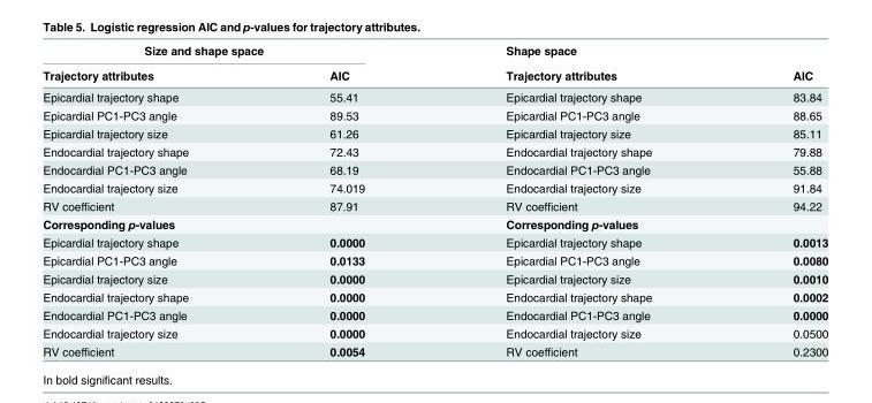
<table><thead><tr><td colspan="2">Size and shape space</td><td rowspan="2">Shape space Trajectory attributes</td><td rowspan="2">AIC</td></tr><tr><td>Trajectory attributes</td><td>AIC</td></tr></thead><tbody><tr><td>Epicardial trajectory shape</td><td>55.41</td><td>Epicardial trajectory shape</td><td>83.84</td></tr><tr><td>Epicardial PC1-PC3 angle</td><td>89.53</td><td>Epicardial PC1-PC3 angle</td><td>88.65</td></tr><tr><td>Epicardial trajectory size</td><td>61.26</td><td>Epicardial trajectory size</td><td>85.11</td></tr><tr><td>Endocardial trajectory shape</td><td>72.43</td><td>Endocardial trajectory shape</td><td>79.88</td></tr><tr><td>Endocardial PC1-PC3 angle</td><td>68.19</td><td>Endocardial PC1-PC3 angle</td><td>55.88</td></tr><tr><td>Endocardial trajectory size</td><td>74.019</td><td>Endocardial trajectory size</td><td>91.84</td></tr><tr><td>RV coefficient</td><td>87.91</td><td>RV coefficient</td><td>94.22</td></tr><tr><td colspan="2">Corresponding p-values</td><td>Corresponding p-values</td><td></td></tr><tr><td>Epicardial trajectory shape</td><td>0.0000</td><td>Epicardial trajectory shape</td><td>0.0013</td></tr><tr><td>Epicardial PC1-PC3 angle</td><td>0.0133</td><td>Epicardial PC1-PC3 angle</td><td>0.0080</td></tr><tr><td>Epicardial trajectory size</td><td>0.0000</td><td>Epicardial trajectory size</td><td>0.0010</td></tr><tr><td>Endocardial trajectory shape</td><td>0.0000</td><td>Endocardial trajectory shape</td><td>0.0002</td></tr><tr><td>Endocardial PC1-PC3 angle</td><td>0.0000</td><td>Endocardial PC1-PC3 angle</td><td>0.0000</td></tr><tr><td>Endocardial trajectory size</td><td>0.0000</td><td>Endocardial trajectory size</td><td>0.0500</td></tr><tr><td>RV coefficient</td><td>0.0054</td><td>RV coefficient</td><td>0.2300</td></tr></tbody></table>